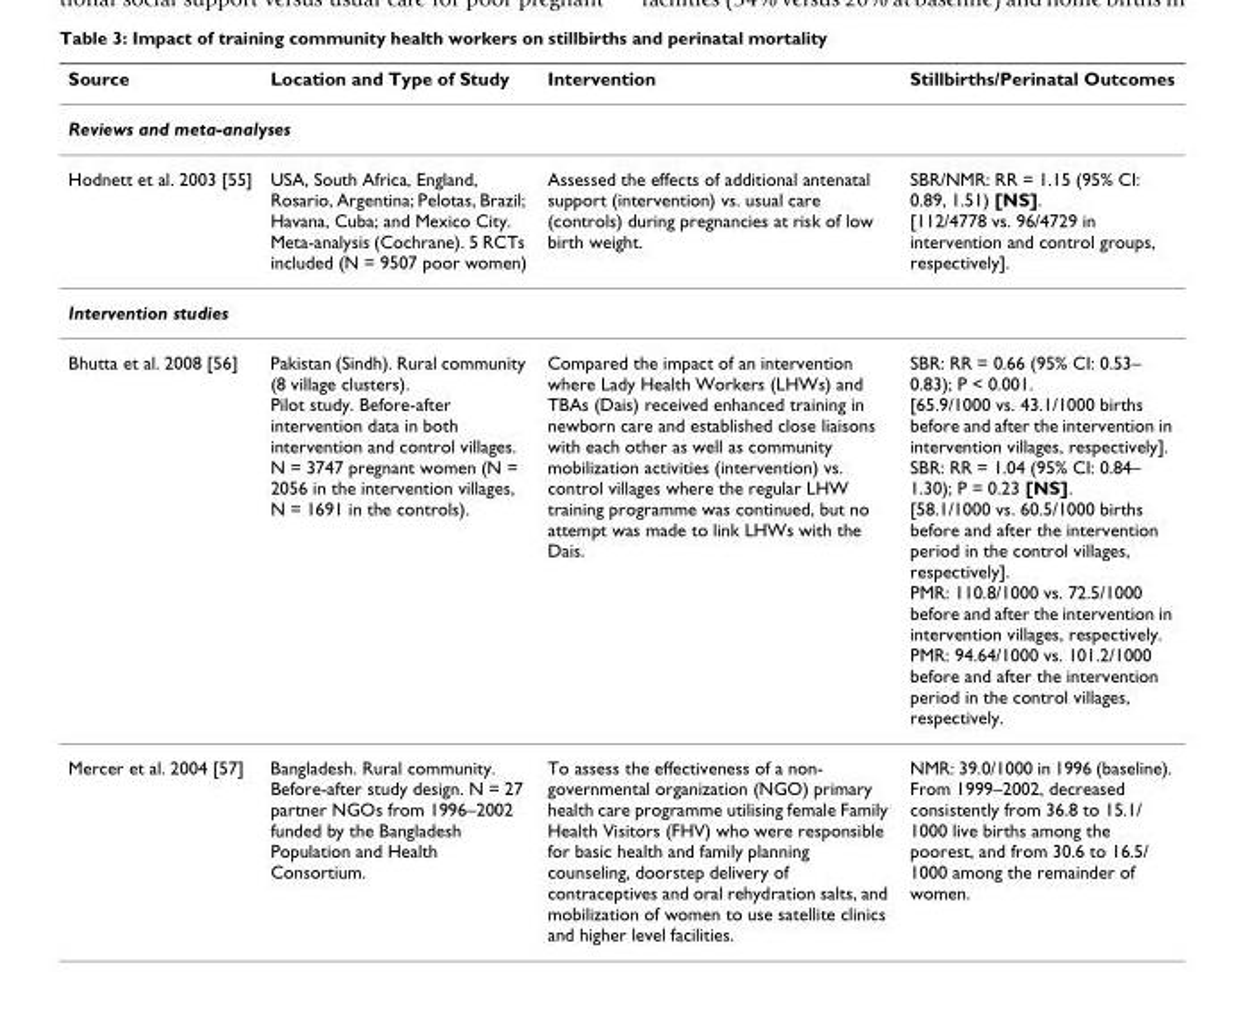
<table><thead><tr><td>Source</td><td>Location and Type of Study</td><td>Intervention</td><td>Stillbirths/Perinatal Outcomes</td></tr></thead><tbody><tr><td colspan="4">Reviews and meta-analyses</td></tr><tr><td>Hodnett et al. 2003 [55]</td><td>USA, South Africa, England, Rosario, Argentina; Pelotas, Brazil; Havana, Cuba; and Mexico City. Meta-analysis (Cochrane). 5 RCTs included (N = 9507 poor women)</td><td>Assessed the effects of additional antenatal support (intervention) vs. usual care (controls) during pregnancies at risk of low birth weight.</td><td>SBR/NMR: RR = 1.15 (95% CI: 0.89, 1.51) [NS]. [112/4778 vs. 96/4729 in intervention and control groups, respectively].</td></tr><tr><td colspan="4">Intervention studies</td></tr><tr><td>Bhutta et al. 2008 [56]</td><td>Pakistan (Sindh). Rural community (8 village clusters). Pilot study. Before-after intervention data in both intervention and control villages. N = 3747 pregnant women (N = 2056 in the intervention villages, N = 1691 in the controls).</td><td>Compared the impact of an intervention where Lady Health Workers (LHWs) and TBAs (Dais) received enhanced training in newborn care and established close liaisons with each other as well as community mobilization activities (intervention) vs. control villages where the regular LHW training programme was continued, but no attempt was made to link LHWs with the Dais.</td><td>SBR: RR = 0.66 (95% CI: 0.53– 0.83); P &lt; 0.001. [65.9/1000 vs. 43.1/1000 births before and after the intervention in intervention villages, respectively]. SBR: RR = 1.04 (95% CI: 0.84– 1.30); P = 0.23 [NS]. [58.1/1000 vs. 60.5/1000 births before and after the intervention period in the control villages, respectively]. PMR: 110.8/1000 vs. 72.5/1000 before and after the intervention in intervention villages, respectively. PMR: 94.64/1000 vs. 101.2/1000 before and after the intervention period in the control villages, respectively.</td></tr><tr><td>Mercer et al. 2004 [57]</td><td>Bangladesh. Rural community. Before-after study design. N = 27 partner NGOs from 1996–2002 funded by the Bangladesh Population and Health Consortium.</td><td>To assess the effectiveness of a non- governmental organization (NGO) primary health care programme utilising female Family Health Visitors (FHV) who were responsible for basic health and family planning counseling, doorstep delivery of contraceptives and oral rehydration salts, and mobilization of women to use satellite clinics and higher level facilities.</td><td>NMR: 39.0/1000 in 1996 (baseline). From 1999–2002, decreased consistently from 36.8 to 15.1/ 1000 live births among the poorest, and from 30.6 to 16.5/ 1000 among the remainder of women.</td></tr></tbody></table>